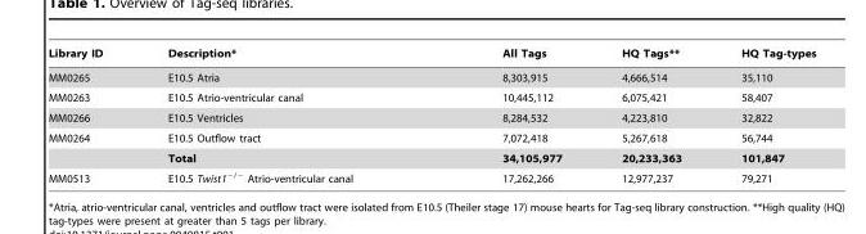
<table><thead><tr><td>Library ID</td><td>Description*</td><td>All Tags</td><td>HQ Tags**</td><td>HQ Tag-types</td></tr></thead><tbody><tr><td>MM0265</td><td>E10.5 Atria</td><td>8,303,915</td><td>4,666,514</td><td>35,110</td></tr><tr><td>MM0263</td><td>E10.5 Atrio-ventricular canal</td><td>10,445,112</td><td>6,075,421</td><td>58,407</td></tr><tr><td>MM0266</td><td>E10.5 Ventricles</td><td>8,284,532</td><td>4,223,810</td><td>32,822</td></tr><tr><td rowspan="2">MM0264</td><td>E10.5 Outflow tract</td><td>7,072,418</td><td>5,267,618</td><td>56,744</td></tr><tr><td>Total</td><td>34,105,977</td><td>20,233,363</td><td>101,847</td></tr><tr><td>MM0513</td><td>E10.5 Twist1<sup>−/−</sup> Atrio-ventricular canal</td><td>17,262,266</td><td>12,977,237</td><td>79,271</td></tr></tbody></table>